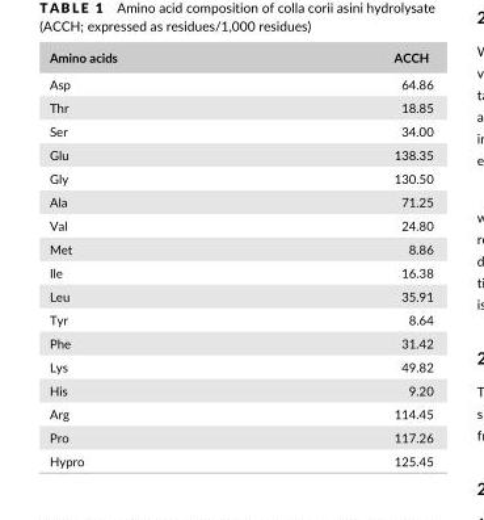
<table><thead><tr><td>Amino acids</td><td>ACCH</td></tr></thead><tbody><tr><td>Asp</td><td>64.86</td></tr><tr><td>Thr</td><td>18.85</td></tr><tr><td>Ser</td><td>34.00</td></tr><tr><td>Glu</td><td>138.35</td></tr><tr><td>Gly</td><td>130.50</td></tr><tr><td>Ala</td><td>71.25</td></tr><tr><td>Val</td><td>24.80</td></tr><tr><td>Met</td><td>8.86</td></tr><tr><td>Ile</td><td>16.38</td></tr><tr><td>Leu</td><td>35.91</td></tr><tr><td>Tyr</td><td>8.64</td></tr><tr><td>Phe</td><td>31.42</td></tr><tr><td>Lys</td><td>49.82</td></tr><tr><td>His</td><td>9.20</td></tr><tr><td>Arg</td><td>114.45</td></tr><tr><td>Pro</td><td>117.26</td></tr><tr><td>Hypro</td><td>125.45</td></tr></tbody></table>